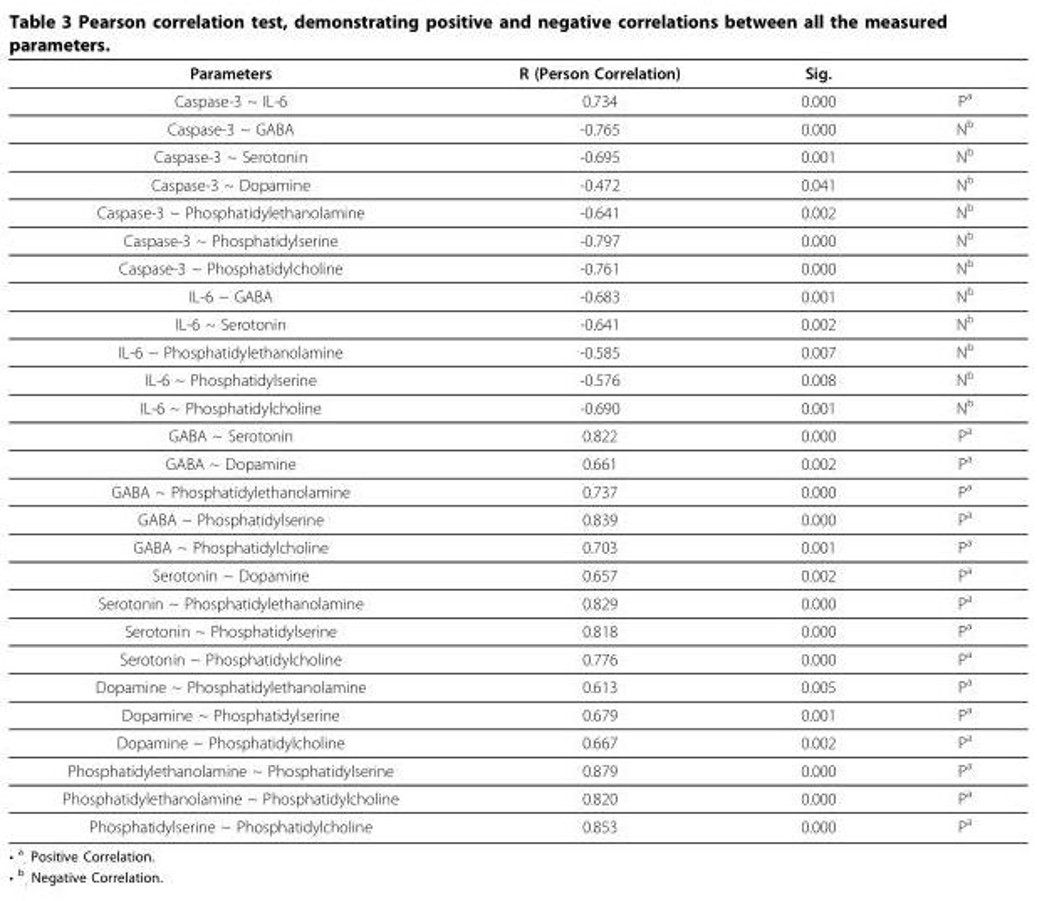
<table><thead><tr><td>Parameters</td><td>R (Person Correlation)</td><td>Sig.</td><td></td></tr></thead><tbody><tr><td>Caspase-3 ~ IL-6</td><td>0.734</td><td>0.000</td><td>P<sup>a</sup></td></tr><tr><td>Caspase-3 ~ GABA</td><td>-0.765</td><td>0.000</td><td>N<sup>b</sup></td></tr><tr><td>Caspase-3 ~ Serotonin</td><td>-0.695</td><td>0.001</td><td>N<sup>b</sup></td></tr><tr><td>Caspase-3 ~ Dopamine</td><td>-0.472</td><td>0.041</td><td>N<sup>b</sup></td></tr><tr><td>Caspase-3 ~ Phosphatidylethanolamine</td><td>-0.641</td><td>0.002</td><td>N<sup>b</sup></td></tr><tr><td>Caspase-3 ~ Phosphatidylserine</td><td>-0.797</td><td>0.000</td><td>N<sup>b</sup></td></tr><tr><td>Caspase-3 ~ Phosphatidylcholine</td><td>-0.761</td><td>0.000</td><td>N<sup>b</sup></td></tr><tr><td>IL-6 ~ GABA</td><td>-0.683</td><td>0.001</td><td>N<sup>b</sup></td></tr><tr><td>IL-6 ~ Serotonin</td><td>-0.641</td><td>0.002</td><td>N<sup>b</sup></td></tr><tr><td>IL-6 ~ Phosphatidylethanolamine</td><td>-0.585</td><td>0.007</td><td>N<sup>b</sup></td></tr><tr><td>IL-6 ~ Phosphatidylserine</td><td>-0.576</td><td>0.008</td><td>N<sup>b</sup></td></tr><tr><td>IL-6 ~ Phosphatidylcholine</td><td>-0.690</td><td>0.001</td><td>N<sup>b</sup></td></tr><tr><td>GABA ~ Serotonin</td><td>0.822</td><td>0.000</td><td>P<sup>a</sup></td></tr><tr><td>GABA ~ Dopamine</td><td>0.661</td><td>0.002</td><td>P<sup>a</sup></td></tr><tr><td>GABA ~ Phosphatidylethanolamine</td><td>0.737</td><td>0.000</td><td>P<sup>a</sup></td></tr><tr><td>GABA ~ Phosphatidylserine</td><td>0.839</td><td>0.000</td><td>P<sup>a</sup></td></tr><tr><td>GABA ~ Phosphatidylcholine</td><td>0.703</td><td>0.001</td><td>P<sup>a</sup></td></tr><tr><td>Serotonin ~ Dopamine</td><td>0.657</td><td>0.002</td><td>P<sup>a</sup></td></tr><tr><td>Serotonin ~ Phosphatidylethanolamine</td><td>0.829</td><td>0.000</td><td>P<sup>a</sup></td></tr><tr><td>Serotonin ~ Phosphatidylserine</td><td>0.818</td><td>0.000</td><td>P<sup>a</sup></td></tr><tr><td>Serotonin ~ Phosphatidylcholine</td><td>0.776</td><td>0.000</td><td>P<sup>a</sup></td></tr><tr><td>Dopamine ~ Phosphatidylethanolamine</td><td>0.613</td><td>0.005</td><td>P<sup>a</sup></td></tr><tr><td>Dopamine ~ Phosphatidylserine</td><td>0.679</td><td>0.001</td><td>P<sup>a</sup></td></tr><tr><td>Dopamine ~ Phosphatidylcholine</td><td>0.667</td><td>0.002</td><td>P<sup>a</sup></td></tr><tr><td>Phosphatidylethanolamine ~ Phosphatidylserine</td><td>0.879</td><td>0.000</td><td>P<sup>a</sup></td></tr><tr><td>Phosphatidylethanolamine ~ Phosphatidylcholine</td><td>0.820</td><td>0.000</td><td>P<sup>a</sup></td></tr><tr><td>Phosphatidylserine ~ Phosphatidylcholine</td><td>0.853</td><td>0.000</td><td>P<sup>a</sup></td></tr></tbody></table>